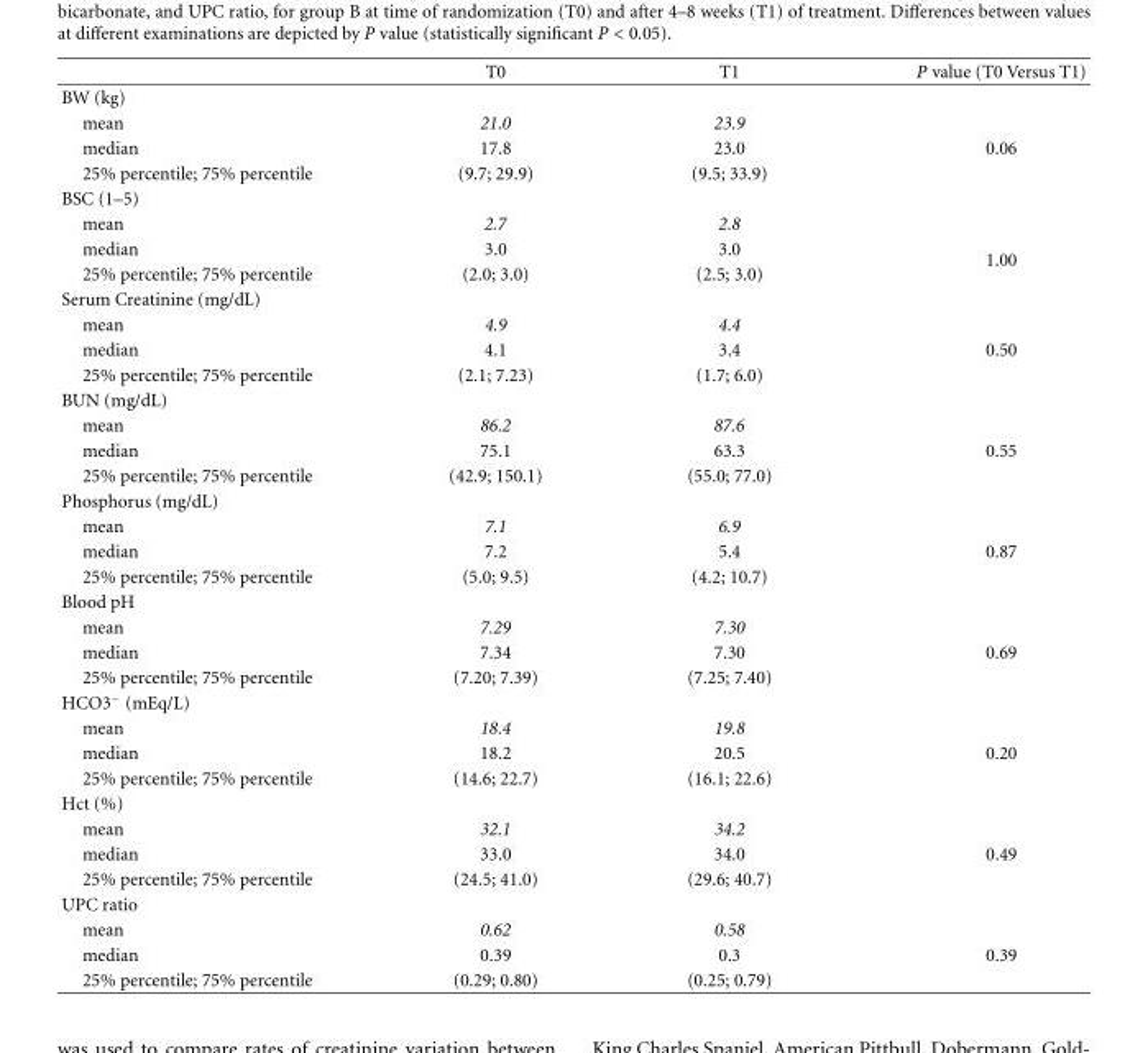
<table><thead><tr><td></td><td>T0</td><td>T1</td><td>P value (T0 Versus T1)</td></tr></thead><tbody><tr><td colspan="4">BW (kg)</td></tr><tr><td>mean</td><td>21.0</td><td>23.9</td><td></td></tr><tr><td>median</td><td>17.8</td><td>23.0</td><td>0.06</td></tr><tr><td>25% percentile; 75% percentile</td><td>(9.7; 29.9)</td><td>(9.5; 33.9)</td><td></td></tr><tr><td colspan="4">BSC (1–5)</td></tr><tr><td>mean</td><td>2.7</td><td>2.8</td><td></td></tr><tr><td>median</td><td>3.0</td><td>3.0</td><td rowspan="2">1.00</td></tr><tr><td>25% percentile; 75% percentile</td><td>(2.0; 3.0)</td><td>(2.5; 3.0)</td></tr><tr><td colspan="4">Serum Creatinine (mg/dL)</td></tr><tr><td>mean</td><td>4.9</td><td>4.4</td><td></td></tr><tr><td>median</td><td>4.1</td><td>3.4</td><td>0.50</td></tr><tr><td>25% percentile; 75% percentile</td><td>(2.1; 7.23)</td><td>(1.7; 6.0)</td><td></td></tr><tr><td colspan="4">BUN (mg/dL)</td></tr><tr><td>mean</td><td>86.2</td><td>87.6</td><td></td></tr><tr><td>median</td><td>75.1</td><td>63.3</td><td>0.55</td></tr><tr><td>25% percentile; 75% percentile</td><td>(42.9; 150.1)</td><td>(55.0; 77.0)</td><td></td></tr><tr><td colspan="4">Phosphorus (mg/dL)</td></tr><tr><td>mean</td><td>7.1</td><td>6.9</td><td></td></tr><tr><td>median</td><td>7.2</td><td>5.4</td><td>0.87</td></tr><tr><td>25% percentile; 75% percentile</td><td>(5.0; 9.5)</td><td>(4.2; 10.7)</td><td></td></tr><tr><td colspan="4">Blood pH</td></tr><tr><td>mean</td><td>7.29</td><td>7.30</td><td></td></tr><tr><td>median</td><td>7.34</td><td>7.30</td><td>0.69</td></tr><tr><td>25% percentile; 75% percentile</td><td>(7.20; 7.39)</td><td>(7.25; 7.40)</td><td></td></tr><tr><td colspan="4">HCO3<sup>−</sup> (mEq/L)</td></tr><tr><td>mean</td><td>18.4</td><td>19.8</td><td></td></tr><tr><td>median</td><td>18.2</td><td>20.5</td><td>0.20</td></tr><tr><td>25% percentile; 75% percentile</td><td>(14.6; 22.7)</td><td>(16.1; 22.6)</td><td></td></tr><tr><td colspan="4">Hct (%)</td></tr><tr><td>mean</td><td>32.1</td><td>34.2</td><td></td></tr><tr><td>median</td><td>33.0</td><td>34.0</td><td>0.49</td></tr><tr><td>25% percentile; 75% percentile</td><td>(24.5; 41.0)</td><td>(29.6; 40.7)</td><td></td></tr><tr><td colspan="4">UPC ratio</td></tr><tr><td>mean</td><td>0.62</td><td>0.58</td><td></td></tr><tr><td>median</td><td>0.39</td><td>0.3</td><td>0.39</td></tr><tr><td>25% percentile; 75% percentile</td><td>(0.29; 0.80)</td><td>(0.25; 0.79)</td><td></td></tr></tbody></table>